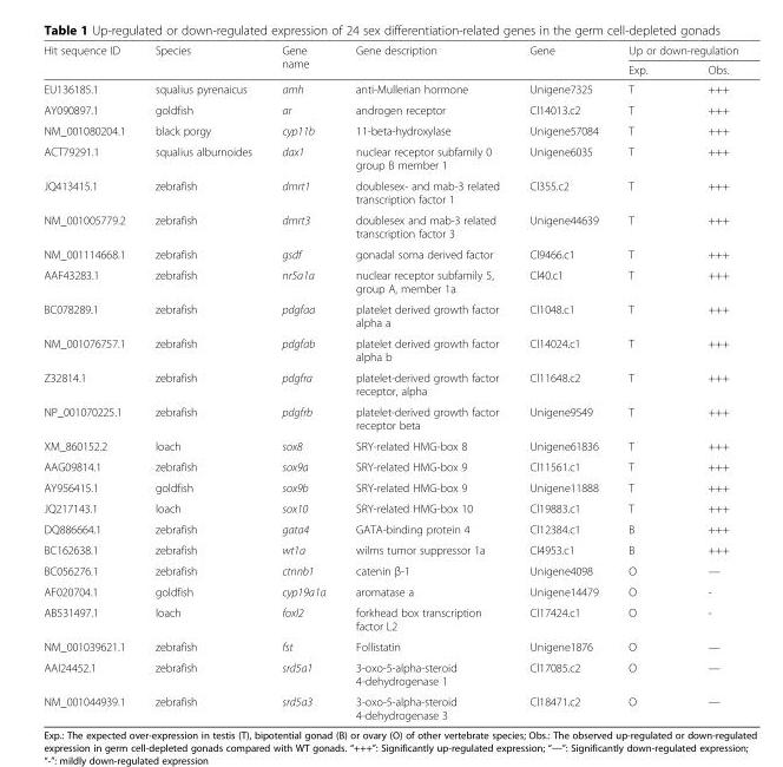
<table><thead><tr><td rowspan="2">Hit sequence ID</td><td rowspan="2">Species</td><td rowspan="2">Gene name</td><td rowspan="2">Gene description</td><td rowspan="2">Gene</td><td colspan="2">Up or down-regulation</td></tr><tr><td>Exp.</td><td>Obs.</td></tr></thead><tbody><tr><td>EU136185.1</td><td>squalius pyrenaicus</td><td>amh</td><td>anti-Mullerian hormone</td><td>Unigene7325</td><td>T</td><td>+++</td></tr><tr><td>AY090897.1</td><td>goldfish</td><td>ar</td><td>androgen receptor</td><td>Cl14013.c2</td><td>T</td><td>+++</td></tr><tr><td>NM_001080204.1</td><td>black porgy</td><td>cyp11b</td><td>11-beta-hydroxylase</td><td>Unigene57084</td><td>T</td><td>+++</td></tr><tr><td>ACT79291.1</td><td>squalius alburnoides</td><td>dax1</td><td>nuclear receptor subfamily 0 group B member 1</td><td>Unigene6035</td><td>T</td><td>+++</td></tr><tr><td>JQ413415.1</td><td>zebrafish</td><td>dmrt1</td><td>doublesex- and mab-3 related transcription factor 1</td><td>Cl355.c2</td><td>T</td><td>+++</td></tr><tr><td>NM_001005779.2</td><td>zebrafish</td><td>dmrt3</td><td>doublesex and mab-3 related transcription factor 3</td><td>Unigene44639</td><td>T</td><td>+++</td></tr><tr><td>NM_001114668.1</td><td>zebrafish</td><td>gsdf</td><td>gonadal soma derived factor</td><td>Cl9466.c1</td><td>T</td><td>+++</td></tr><tr><td>AAF43283.1</td><td>zebrafish</td><td>nr5a1a</td><td>nuclear receptor subfamily 5, group A, member 1a</td><td>Cl40.c1</td><td>T</td><td>+++</td></tr><tr><td>BC078289.1</td><td>zebrafish</td><td>pdgfaa</td><td>platelet derived growth factor alpha a</td><td>Cl1048.c1</td><td>T</td><td>+++</td></tr><tr><td>NM_001076757.1</td><td>zebrafish</td><td>pdgfab</td><td>platelet derived growth factor alpha b</td><td>Cl14024.c1</td><td>T</td><td>+++</td></tr><tr><td>Z32814.1</td><td>zebrafish</td><td>pdgfra</td><td>platelet-derived growth factor receptor, alpha</td><td>Cl11648.c2</td><td>T</td><td>+++</td></tr><tr><td>NP_001070225.1</td><td>zebrafish</td><td>pdgfrb</td><td>platelet-derived growth factor receptor beta</td><td>Unigene9549</td><td>T</td><td>+++</td></tr><tr><td>XM_860152.2</td><td>loach</td><td>sox8</td><td>SRY-related HMG-box 8</td><td>Unigene61836</td><td>T</td><td>+++</td></tr><tr><td>AAG09814.1</td><td>zebrafish</td><td>sox9a</td><td>SRY-related HMG-box 9</td><td>Cl11561.c1</td><td>T</td><td>+++</td></tr><tr><td>AY956415.1</td><td>goldfish</td><td>sox9b</td><td>SRY-related HMG-box 9</td><td>Unigene11888</td><td>T</td><td>+++</td></tr><tr><td>JQ217143.1</td><td>loach</td><td>sox10</td><td>SRY-related HMG-box 10</td><td>Cl19883.c1</td><td>T</td><td>+++</td></tr><tr><td>DQ886664.1</td><td>zebrafish</td><td>gata4</td><td>GATA-binding protein 4</td><td>Cl12384.c1</td><td>B</td><td>+++</td></tr><tr><td>BC162638.1</td><td>zebrafish</td><td>wt1a</td><td>wilms tumor suppressor 1a</td><td>Cl4953.c1</td><td>B</td><td>+++</td></tr><tr><td>BC056276.1</td><td>zebrafish</td><td>ctnnb1</td><td>catenin β-1</td><td>Unigene4098</td><td>O</td><td>—</td></tr><tr><td>AF020704.1</td><td>goldfish</td><td>cyp19a1a</td><td>aromatase a</td><td>Unigene14479</td><td>O</td><td>-</td></tr><tr><td>AB531497.1</td><td>loach</td><td>foxl2</td><td>forkhead box transcription factor L2</td><td>Cl17424.c1</td><td>O</td><td>-</td></tr><tr><td>NM_001039621.1</td><td>zebrafish</td><td>fst</td><td>Follistatin</td><td>Unigene1876</td><td>O</td><td>—</td></tr><tr><td>AAI24452.1</td><td>zebrafish</td><td>srd5a1</td><td>3-oxo-5-alpha-steroid 4-dehydrogenase 1</td><td>Cl17085.c2</td><td>O</td><td>—</td></tr><tr><td>NM_001044939.1</td><td>zebrafish</td><td>srd5a3</td><td>3-oxo-5-alpha-steroid 4-dehydrogenase 3</td><td>Cl18471.c2</td><td>O</td><td>—</td></tr></tbody></table>